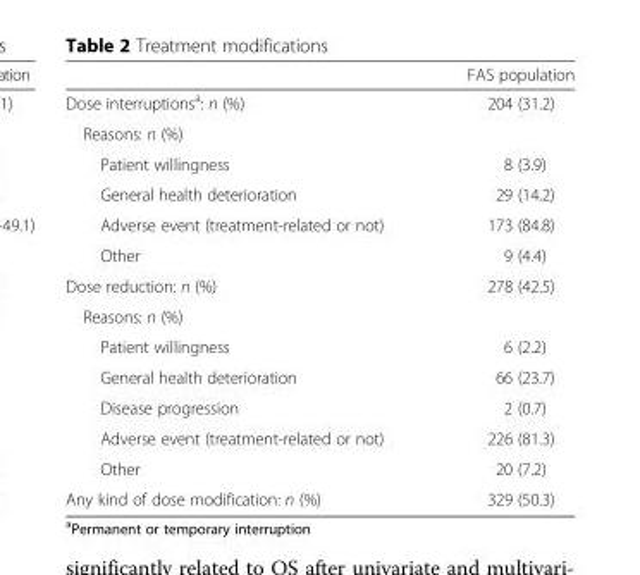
<table><thead><tr><td></td><td>FAS population</td></tr></thead><tbody><tr><td>Dose interruptions<sup>a</sup>: n (%)</td><td>204 (31.2)</td></tr><tr><td colspan="2">Reasons: n (%)</td></tr><tr><td>Patient willingness</td><td>8 (3.9)</td></tr><tr><td>General health deterioration</td><td>29 (14.2)</td></tr><tr><td>Adverse event (treatment-related or not)</td><td>173 (84.8)</td></tr><tr><td>Other</td><td>9 (4.4)</td></tr><tr><td>Dose reduction: n (%)</td><td>278 (42.5)</td></tr><tr><td colspan="2">Reasons: n (%)</td></tr><tr><td>Patient willingness</td><td>6 (2.2)</td></tr><tr><td>General health deterioration</td><td>66 (23.7)</td></tr><tr><td>Disease progression</td><td>2 (0.7)</td></tr><tr><td>Adverse event (treatment-related or not)</td><td>226 (81.3)</td></tr><tr><td>Other</td><td>20 (7.2)</td></tr><tr><td>Any kind of dose modification: n (%)</td><td>329 (50.3)</td></tr></tbody></table>